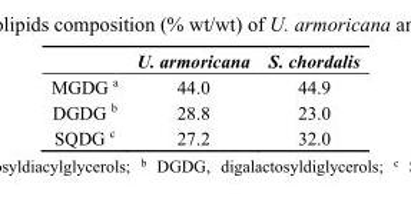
<table><thead><tr><td></td><td>U. armoricana</td><td>S. chordalis</td></tr></thead><tbody><tr><td>MGDG <sup>a</sup></td><td>44.0</td><td>44.9</td></tr><tr><td>DGDG <sup>b</sup></td><td>28.8</td><td>23.0</td></tr><tr><td>SQDG <sup>c</sup></td><td>27.2</td><td>32.0</td></tr></tbody></table>